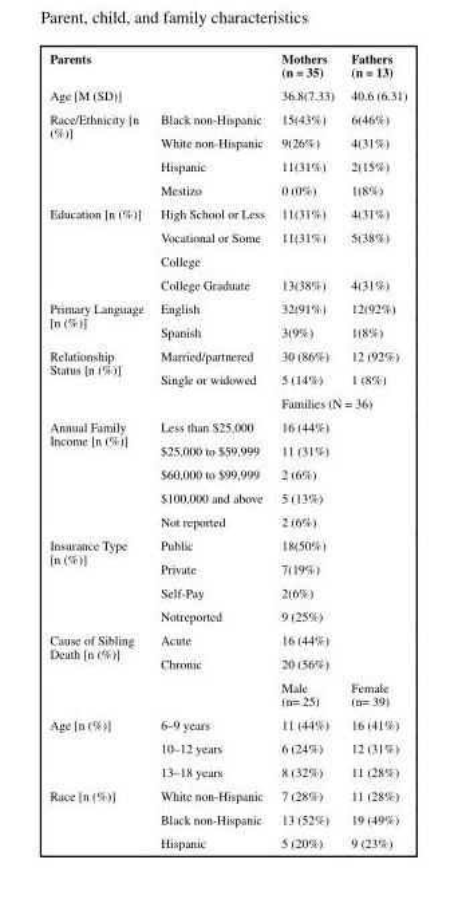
<table><thead><tr><td>Parents</td><td></td><td>Mothers (n = 35)</td><td>Fathers (n = 13)</td></tr></thead><tbody><tr><td>Age [M (SD)]</td><td></td><td>36.8(7.33)</td><td>40.6 (6.31)</td></tr><tr><td rowspan="4">Race/Ethnicity [n (%)]</td><td>Black non-Hispanic</td><td>15(43%)</td><td>6(46%)</td></tr><tr><td>White non-Hispanic</td><td>9(26%)</td><td>4(31%)</td></tr><tr><td>Hispanic</td><td>11(31%)</td><td>2(15%)</td></tr><tr><td>Mestizo</td><td>0 (0%)</td><td>1(8%)</td></tr><tr><td rowspan="4">Education [n (%)]</td><td>High School or Less</td><td>11(31%)</td><td>4(31%)</td></tr><tr><td>Vocational or Some</td><td>11(31%)</td><td>5(38%)</td></tr><tr><td>College</td><td></td><td></td></tr><tr><td>College Graduate</td><td>13(38%)</td><td>4(31%)</td></tr><tr><td rowspan="2">Primary Language [n (%)]</td><td>English</td><td>32(91%)</td><td>12(92%)</td></tr><tr><td>Spanish</td><td>3(9%)</td><td>1(8%)</td></tr><tr><td rowspan="3">Relationship Status [n (%)]</td><td>Married/partnered</td><td>30 (86%)</td><td>12 (92%)</td></tr><tr><td>Single or widowed</td><td>5 (14%)</td><td>1 (8%)</td></tr><tr><td></td><td colspan="2">Families (N = 36)</td></tr><tr><td rowspan="5">Annual Family Income [n (%)]</td><td>Less than $25,000</td><td>16 (44%)</td><td rowspan="5"></td></tr><tr><td>$25,000 to $59,999</td><td>11 (31%)</td></tr><tr><td>$60,000 to $99,999</td><td>2 (6%)</td></tr><tr><td>$100,000 and above</td><td>5 (13%)</td></tr><tr><td>Not reported</td><td>2 (6%)</td></tr><tr><td rowspan="4">Insurance Type [n (%)]</td><td>Public</td><td>18(50%)</td><td rowspan="4"></td></tr><tr><td>Private</td><td>7(19%)</td></tr><tr><td>Self-Pay</td><td>2(6%)</td></tr><tr><td>Notreported</td><td>9 (25%)</td></tr><tr><td rowspan="3">Cause of Sibling Death [n (%)]</td><td>Acute</td><td>16 (44%)</td><td rowspan="2"></td></tr><tr><td>Chronic</td><td>20 (56%)</td></tr><tr><td></td><td>Male (n= 25)</td><td>Female (n= 39)</td></tr><tr><td rowspan="3">Age [n (%)]</td><td>6–9 years</td><td>11 (44%)</td><td>16 (41%)</td></tr><tr><td>10–12 years</td><td>6 (24%)</td><td>12 (31%)</td></tr><tr><td>13–18 years</td><td>8 (32%)</td><td>11 (28%)</td></tr><tr><td rowspan="3">Race [n (%)]</td><td>White non-Hispanic</td><td>7 (28%)</td><td>11 (28%)</td></tr><tr><td>Black non-Hispanic</td><td>13 (52%)</td><td>19 (49%)</td></tr><tr><td>Hispanic</td><td>5 (20%)</td><td>9 (23%)</td></tr></tbody></table>